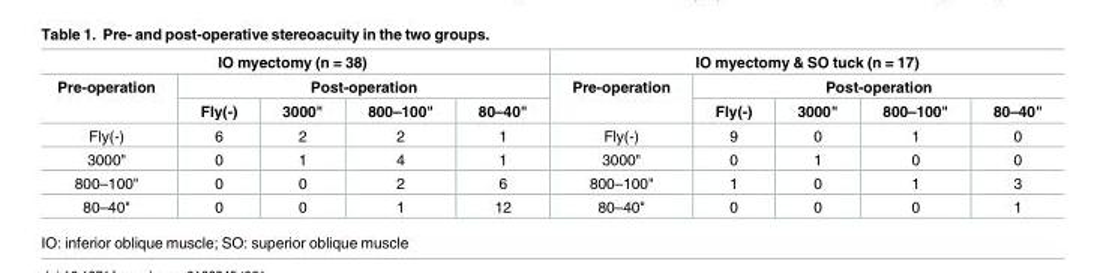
<table><thead><tr><td colspan="5">IO myectomy (n = 38)</td><td colspan="5">IO myectomy &amp; SO tuck (n = 17)</td></tr><tr><td rowspan="2">Pre-operation</td><td colspan="4">Post-operation</td><td rowspan="2">Pre-operation</td><td colspan="4">Post-operation</td></tr><tr><td>Fly(-)</td><td>3000&quot;</td><td>800–100&quot;</td><td>80–40&quot;</td><td>Fly(-)</td><td>3000&quot;</td><td>800–100&quot;</td><td>80–40&quot;</td></tr></thead><tbody><tr><td>Fly(-)</td><td>6</td><td>2</td><td>2</td><td>1</td><td>Fly(-)</td><td>9</td><td>0</td><td>1</td><td>0</td></tr><tr><td>3000&quot;</td><td>0</td><td>1</td><td>4</td><td>1</td><td>3000&quot;</td><td>0</td><td>1</td><td>0</td><td>0</td></tr><tr><td>800–100&quot;</td><td>0</td><td>0</td><td>2</td><td>6</td><td>800–100&quot;</td><td>1</td><td>0</td><td>1</td><td>3</td></tr><tr><td>80–40&quot;</td><td>0</td><td>0</td><td>1</td><td>12</td><td>80–40&quot;</td><td>0</td><td>0</td><td>0</td><td>1</td></tr></tbody></table>